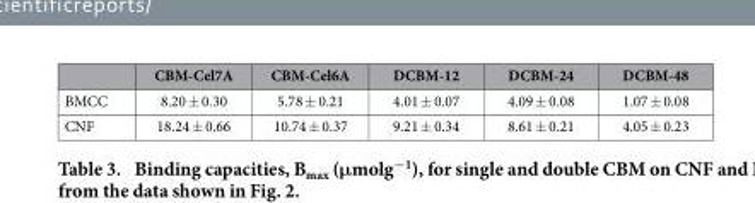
<table><thead><tr><td></td><td>CBM-Cel7A</td><td>CBM-Cel6A</td><td>DCBM-12</td><td>DCBM-24</td><td>DCBM-48</td></tr></thead><tbody><tr><td>BMCC</td><td>8.20 ± 0.30</td><td>5.78 ± 0.21</td><td>4.01 ± 0.07</td><td>4.09 ± 0.08</td><td>1.07 ± 0.08</td></tr><tr><td>CNF</td><td>18.24 ± 0.66</td><td>10.74 ± 0.37</td><td>9.21 ± 0.34</td><td>8.61 ± 0.21</td><td>4.05 ± 0.23</td></tr></tbody></table>